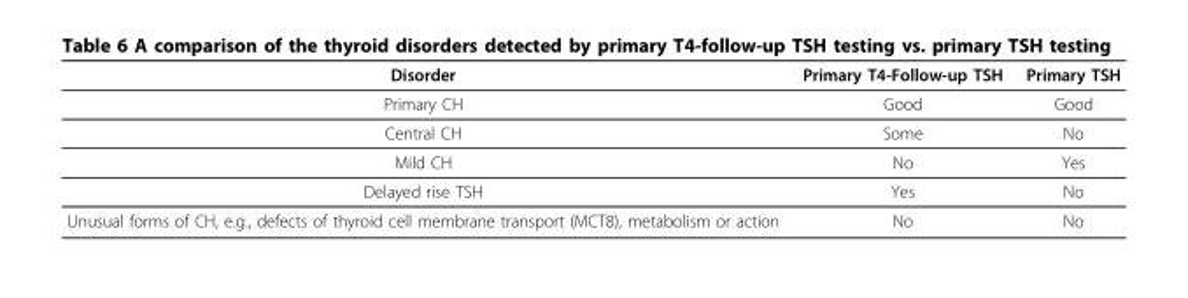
<table><thead><tr><td>Disorder</td><td>Primary T4-Follow-up TSH</td><td>Primary TSH</td></tr></thead><tbody><tr><td>Primary CH</td><td>Good</td><td>Good</td></tr><tr><td>Central CH</td><td>Some</td><td>No</td></tr><tr><td>Mild CH</td><td>No</td><td>Yes</td></tr><tr><td>Delayed rise TSH</td><td>Yes</td><td>No</td></tr><tr><td>Unusual forms of CH, e.g., defects of thyroid cell membrane transport (MCT8), metabolism or action</td><td>No</td><td>No</td></tr></tbody></table>